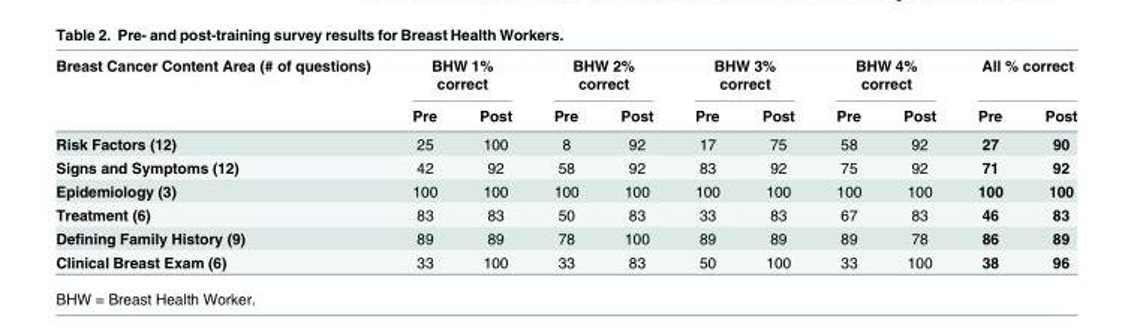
<table><thead><tr><td rowspan="2">Breast Cancer Content Area (# of questions)</td><td colspan="2">BHW 1% correct</td><td colspan="2">BHW 2% correct</td><td colspan="2">BHW 3% correct</td><td colspan="2">BHW 4% correct</td><td colspan="2">All % correct</td></tr><tr><td>Pre</td><td>Post</td><td>Pre</td><td>Post</td><td>Pre</td><td>Post</td><td>Pre</td><td>Post</td><td>Pre</td><td>Post</td></tr></thead><tbody><tr><td>Risk Factors (12)</td><td>25</td><td>100</td><td>8</td><td>92</td><td>17</td><td>75</td><td>58</td><td>92</td><td>27</td><td>90</td></tr><tr><td>Signs and Symptoms (12)</td><td>42</td><td>92</td><td>58</td><td>92</td><td>83</td><td>92</td><td>75</td><td>92</td><td>71</td><td>92</td></tr><tr><td>Epidemiology (3)</td><td>100</td><td>100</td><td>100</td><td>100</td><td>100</td><td>100</td><td>100</td><td>100</td><td>100</td><td>100</td></tr><tr><td>Treatment (6)</td><td>83</td><td>83</td><td>50</td><td>83</td><td>33</td><td>83</td><td>67</td><td>83</td><td>46</td><td>83</td></tr><tr><td>Defining Family History (9)</td><td>89</td><td>89</td><td>78</td><td>100</td><td>89</td><td>89</td><td>89</td><td>78</td><td>86</td><td>89</td></tr><tr><td>Clinical Breast Exam (6)</td><td>33</td><td>100</td><td>33</td><td>83</td><td>50</td><td>100</td><td>33</td><td>100</td><td>38</td><td>96</td></tr></tbody></table>